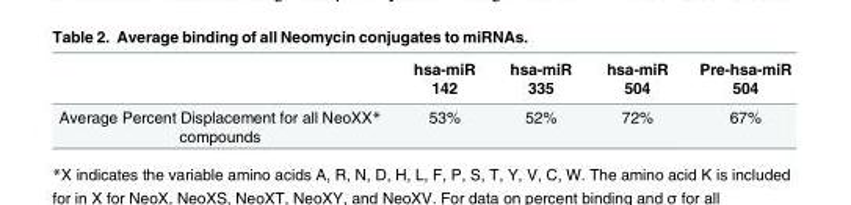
<table><thead><tr><td></td><td>hsa-miR 142</td><td>hsa-miR 335</td><td>hsa-miR 504</td><td>Pre-hsa-miR 504</td></tr></thead><tbody><tr><td>Average Percent Displacement for all NeoXX* compounds</td><td>53%</td><td>52%</td><td>72%</td><td>67%</td></tr></tbody></table>